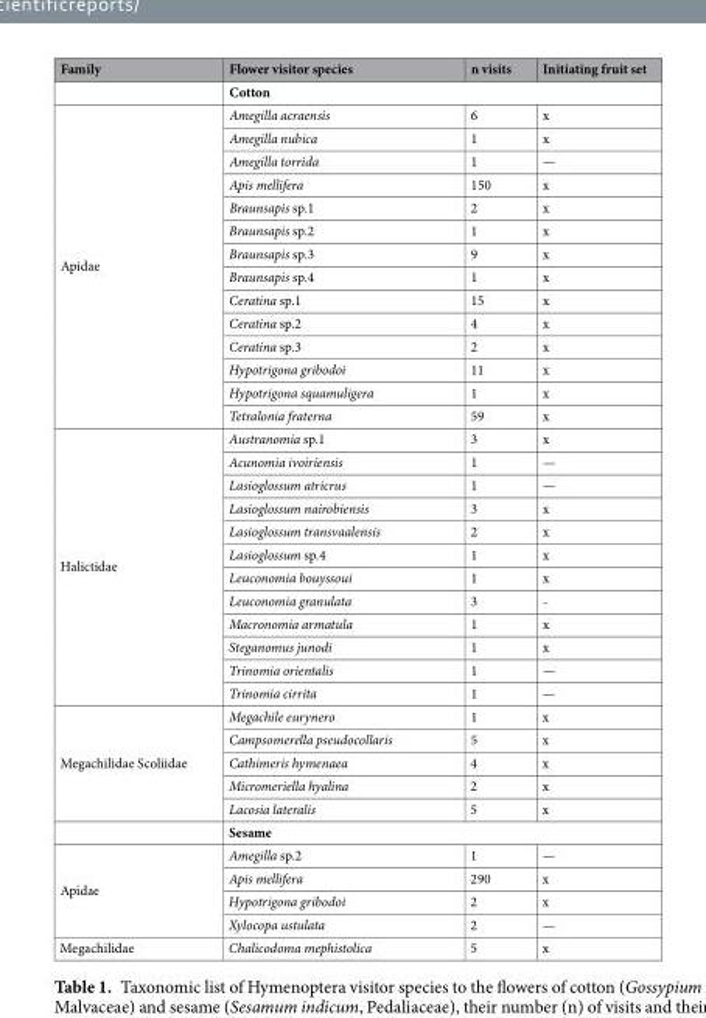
<table><thead><tr><td>Family</td><td>Flower visitor species</td><td>n visits</td><td>Initiating fruit set</td></tr></thead><tbody><tr><td></td><td colspan="3">Cotton</td></tr><tr><td rowspan="14">Apidae</td><td>Amegilla acraensis</td><td>6</td><td>x</td></tr><tr><td>Amegilla nubica</td><td>1</td><td>x</td></tr><tr><td>Amegilla torrida</td><td>1</td><td>—</td></tr><tr><td>Apis mellifera</td><td>150</td><td>x</td></tr><tr><td>Braunsapis sp.1</td><td>2</td><td>x</td></tr><tr><td>Braunsapis sp.2</td><td>1</td><td>x</td></tr><tr><td>Braunsapis sp.3</td><td>9</td><td>x</td></tr><tr><td>Braunsapis sp.4</td><td>1</td><td>x</td></tr><tr><td>Ceratina sp.1</td><td>15</td><td>x</td></tr><tr><td>Ceratina sp.2</td><td>4</td><td>x</td></tr><tr><td>Ceratina sp.3</td><td>2</td><td>x</td></tr><tr><td>Hypotrigona gribodoi</td><td>11</td><td>x</td></tr><tr><td>Hypotrigona squamuligera</td><td>1</td><td>x</td></tr><tr><td>Tetralonia fraterna</td><td>59</td><td>x</td></tr><tr><td rowspan="12">Halictidae</td><td>Austranomia sp.1</td><td>3</td><td>x</td></tr><tr><td>Acunomia ivoiriensis</td><td>1</td><td>—</td></tr><tr><td>Lasioglossum atricrus</td><td>1</td><td>—</td></tr><tr><td>Lasioglossum nairobiensis</td><td>3</td><td>x</td></tr><tr><td>Lasioglossum transvaalensis</td><td>2</td><td>x</td></tr><tr><td>Lasioglossum sp.4</td><td>1</td><td>x</td></tr><tr><td>Leuconomia bouyssoui</td><td>1</td><td>x</td></tr><tr><td>Leuconomia granulata</td><td>3</td><td>-</td></tr><tr><td>Macronomia armatula</td><td>1</td><td>x</td></tr><tr><td>Steganomus junodi</td><td>1</td><td>x</td></tr><tr><td>Trinomia orientalis</td><td>1</td><td>—</td></tr><tr><td>Trinomia cirrita</td><td>1</td><td>—</td></tr><tr><td rowspan="6">Megachilidae Scoliidae</td><td>Megachile eurynero</td><td>1</td><td>x</td></tr><tr><td>Campsomerella pseudocollaris</td><td>5</td><td>x</td></tr><tr><td>Cathimeris hymenaea</td><td>4</td><td>x</td></tr><tr><td>Micromeriella hyalina</td><td>2</td><td>x</td></tr><tr><td>Lacosia lateralis</td><td>5</td><td>x</td></tr><tr><td colspan="3">Sesame</td></tr><tr><td rowspan="4">Apidae</td><td>Amegilla sp.2</td><td>1</td><td>—</td></tr><tr><td>Apis mellifera</td><td>290</td><td>x</td></tr><tr><td>Hypotrigona gribodoi</td><td>2</td><td>x</td></tr><tr><td>Xylocopa ustulata</td><td>2</td><td>—</td></tr><tr><td>Megachilidae</td><td>Chalicodoma mephistolica</td><td>5</td><td>x</td></tr></tbody></table>